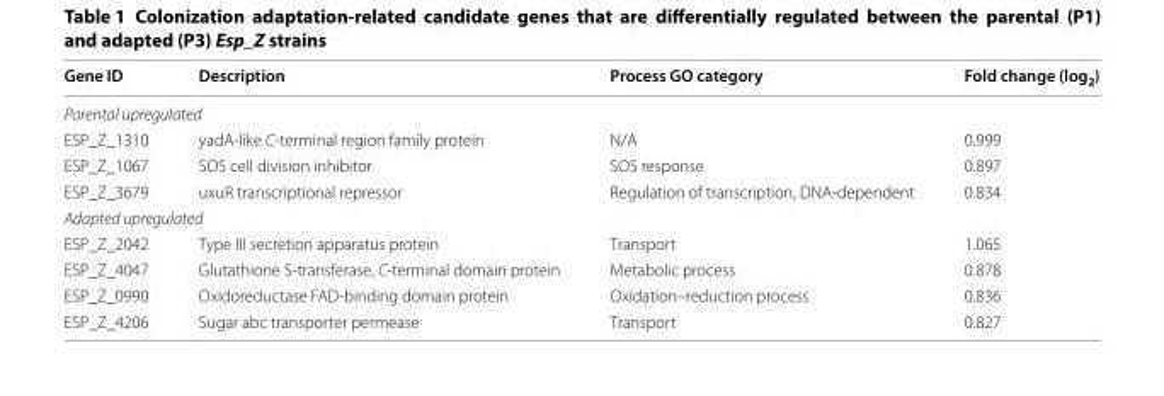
<table><thead><tr><td>Gene ID</td><td>Description</td><td>Process GO category</td><td>Fold change (log<sub>2</sub>)</td></tr></thead><tbody><tr><td colspan="4">Parental upregulated</td></tr><tr><td>ESP_Z_1310</td><td>yadA-like C-terminal region family protein</td><td>N/A</td><td>0.999</td></tr><tr><td>ESP_Z_1067</td><td>SOS cell division inhibitor</td><td>SOS response</td><td>0.897</td></tr><tr><td>ESP_Z_3679</td><td>uxuR transcriptional repressor</td><td>Regulation of transcription, DNA-dependent</td><td>0.834</td></tr><tr><td colspan="4">Adapted upregulated</td></tr><tr><td>ESP_Z_2042</td><td>Type III secretion apparatus protein</td><td>Transport</td><td>1.065</td></tr><tr><td>ESP_Z_4047</td><td>Glutathione S-transferase, C-terminal domain protein</td><td>Metabolic process</td><td>0.878</td></tr><tr><td>ESP_Z_0990</td><td>Oxidoreductase FAD-binding domain protein</td><td>Oxidation–reduction process</td><td>0.836</td></tr><tr><td>ESP_Z_4206</td><td>Sugar abc transporter permease</td><td>Transport</td><td>0.827</td></tr></tbody></table>